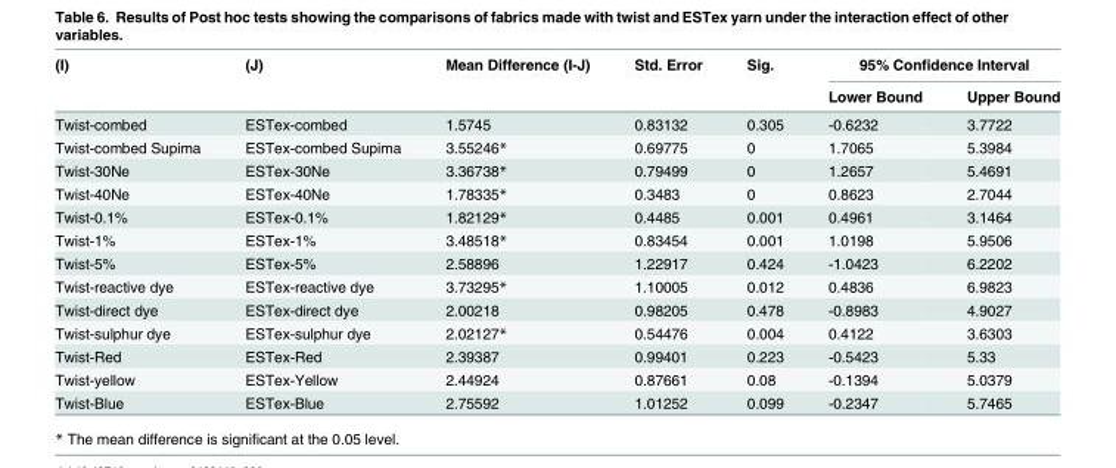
<table><thead><tr><td rowspan="2">(I)</td><td rowspan="2">(J)</td><td rowspan="2">Mean Difference (I-J)</td><td rowspan="2">Std. Error</td><td rowspan="2">Sig.</td><td colspan="2">95% Confidence Interval</td></tr><tr><td>Lower Bound</td><td>Upper Bound</td></tr></thead><tbody><tr><td>Twist-combed</td><td>ESTex-combed</td><td>1.5745</td><td>0.83132</td><td>0.305</td><td>-0.6232</td><td>3.7722</td></tr><tr><td>Twist-combed Supima</td><td>ESTex-combed Supima</td><td>3.55246*</td><td>0.69775</td><td>0</td><td>1.7065</td><td>5.3984</td></tr><tr><td>Twist-30Ne</td><td>ESTex-30Ne</td><td>3.36738*</td><td>0.79499</td><td>0</td><td>1.2657</td><td>5.4691</td></tr><tr><td>Twist-40Ne</td><td>ESTex-40Ne</td><td>1.78335*</td><td>0.3483</td><td>0</td><td>0.8623</td><td>2.7044</td></tr><tr><td>Twist-0.1%</td><td>ESTex-0.1%</td><td>1.82129*</td><td>0.4485</td><td>0.001</td><td>0.4961</td><td>3.1464</td></tr><tr><td>Twist-1%</td><td>ESTex-1%</td><td>3.48518*</td><td>0.83454</td><td>0.001</td><td>1.0198</td><td>5.9506</td></tr><tr><td>Twist-5%</td><td>ESTex-5%</td><td>2.58896</td><td>1.22917</td><td>0.424</td><td>-1.0423</td><td>6.2202</td></tr><tr><td>Twist-reactive dye</td><td>ESTex-reactive dye</td><td>3.73295*</td><td>1.10005</td><td>0.012</td><td>0.4836</td><td>6.9823</td></tr><tr><td>Twist-direct dye</td><td>ESTex-direct dye</td><td>2.00218</td><td>0.98205</td><td>0.478</td><td>-0.8983</td><td>4.9027</td></tr><tr><td>Twist-sulphur dye</td><td>ESTex-sulphur dye</td><td>2.02127*</td><td>0.54476</td><td>0.004</td><td>0.4122</td><td>3.6303</td></tr><tr><td>Twist-Red</td><td>ESTex-Red</td><td>2.39387</td><td>0.99401</td><td>0.223</td><td>-0.5423</td><td>5.33</td></tr><tr><td>Twist-yellow</td><td>ESTex-Yellow</td><td>2.44924</td><td>0.87661</td><td>0.08</td><td>-0.1394</td><td>5.0379</td></tr><tr><td>Twist-Blue</td><td>ESTex-Blue</td><td>2.75592</td><td>1.01252</td><td>0.099</td><td>-0.2347</td><td>5.7465</td></tr></tbody></table>